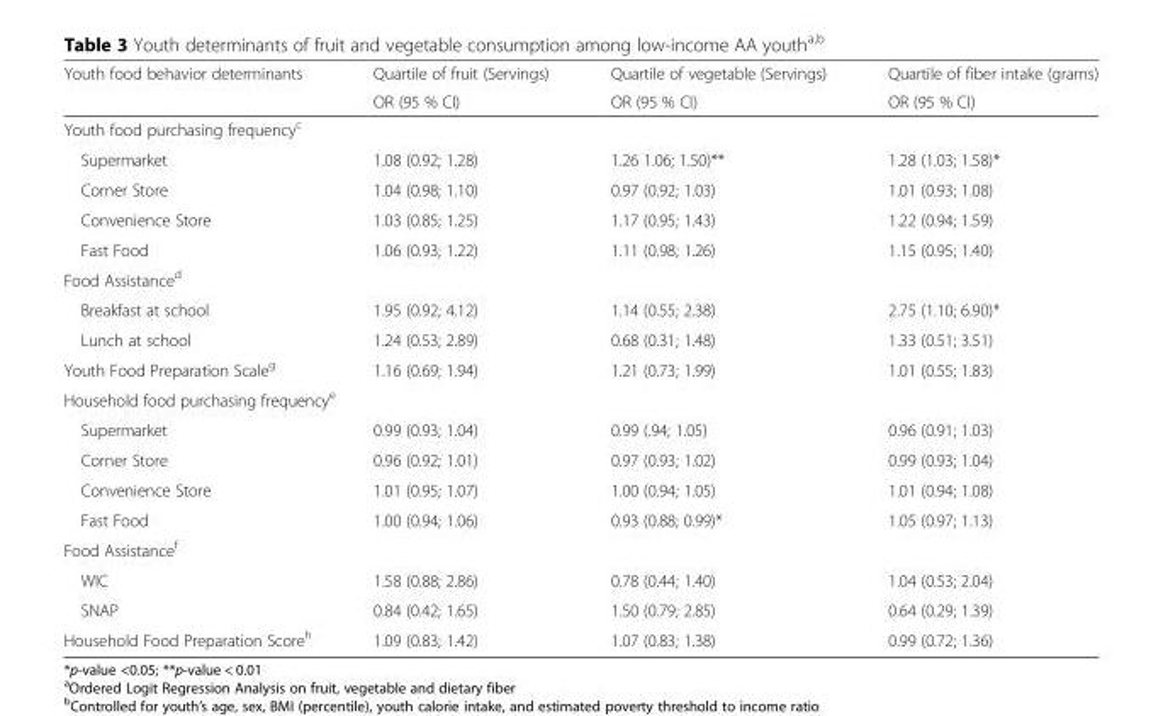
<table><thead><tr><td rowspan="2">Youth food behavior determinants</td><td rowspan="2">Quartile of fruit (Servings) OR (95 % CI)</td><td rowspan="2">Quartile of vegetable (Servings) OR (95 % CI)</td><td rowspan="2">Quartile of fiber intake (grams) OR (95 % CI)</td></tr><tr></tr></thead><tbody><tr><td colspan="4">Youth food purchasing frequency<sup>c</sup></td></tr><tr><td>Supermarket</td><td>1.08 (0.92; 1.28)</td><td>1.26 1.06; 1.50)**</td><td>1.28 (1.03; 1.58)*</td></tr><tr><td>Corner Store</td><td>1.04 (0.98; 1.10)</td><td>0.97 (0.92; 1.03)</td><td>1.01 (0.93; 1.08)</td></tr><tr><td>Convenience Store</td><td>1.03 (0.85; 1.25)</td><td>1.17 (0.95; 1.43)</td><td>1.22 (0.94; 1.59)</td></tr><tr><td>Fast Food</td><td>1.06 (0.93; 1.22)</td><td>1.11 (0.98; 1.26)</td><td>1.15 (0.95; 1.40)</td></tr><tr><td colspan="4">Food Assistance<sup>d</sup></td></tr><tr><td>Breakfast at school</td><td>1.95 (0.92; 4.12)</td><td>1.14 (0.55; 2.38)</td><td>2.75 (1.10; 6.90)*</td></tr><tr><td>Lunch at school</td><td>1.24 (0.53; 2.89)</td><td>0.68 (0.31; 1.48)</td><td>1.33 (0.51; 3.51)</td></tr><tr><td>Youth Food Preparation Scale<sup>g</sup></td><td>1.16 (0.69; 1.94)</td><td>1.21 (0.73; 1.99)</td><td>1.01 (0.55; 1.83)</td></tr><tr><td colspan="4">Household food purchasing frequency<sup>e</sup></td></tr><tr><td>Supermarket</td><td>0.99 (0.93; 1.04)</td><td>0.99 (.94; 1.05)</td><td>0.96 (0.91; 1.03)</td></tr><tr><td>Corner Store</td><td>0.96 (0.92; 1.01)</td><td>0.97 (0.93; 1.02)</td><td>0.99 (0.93; 1.04)</td></tr><tr><td>Convenience Store</td><td>1.01 (0.95; 1.07)</td><td>1.00 (0.94; 1.05)</td><td>1.01 (0.94; 1.08)</td></tr><tr><td>Fast Food</td><td>1.00 (0.94; 1.06)</td><td>0.93 (0.88; 0.99)*</td><td>1.05 (0.97; 1.13)</td></tr><tr><td colspan="4">Food Assistance<sup>f</sup></td></tr><tr><td>WIC</td><td>1.58 (0.88; 2.86)</td><td>0.78 (0.44; 1.40)</td><td>1.04 (0.53; 2.04)</td></tr><tr><td>SNAP</td><td>0.84 (0.42; 1.65)</td><td>1.50 (0.79; 2.85)</td><td>0.64 (0.29; 1.39)</td></tr><tr><td>Household Food Preparation Score<sup>h</sup></td><td>1.09 (0.83; 1.42)</td><td>1.07 (0.83; 1.38)</td><td>0.99 (0.72; 1.36)</td></tr></tbody></table>